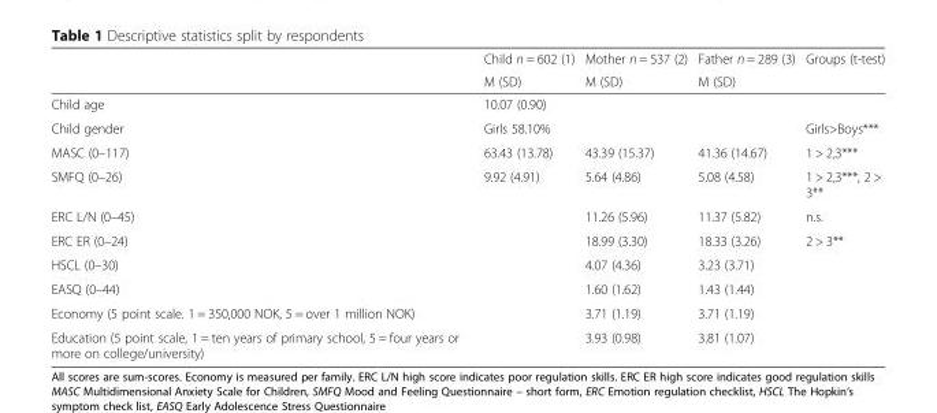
<table><thead><tr><td rowspan="2"></td><td rowspan="2">Child n = 602 (1) M (SD)</td><td rowspan="2">Mother n = 537 (2) M (SD)</td><td rowspan="2">Father n = 289 (3) M (SD)</td><td rowspan="2">Groups (t-test)</td></tr><tr></tr></thead><tbody><tr><td>Child age</td><td>10.07 (0.90)</td><td></td><td></td><td></td></tr><tr><td>Child gender</td><td>Girls 58.10%</td><td></td><td></td><td>Girls&gt;Boys***</td></tr><tr><td>MASC (0–117)</td><td>63.43 (13.78)</td><td>43.39 (15.37)</td><td>41.36 (14.67)</td><td>1 &gt; 2,3***</td></tr><tr><td>SMFQ (0–26)</td><td>9.92 (4.91)</td><td>5.64 (4.86)</td><td>5.08 (4.58)</td><td>1 &gt; 2,3***, 2 &gt; 3**</td></tr><tr><td>ERC L/N (0–45)</td><td></td><td>11.26 (5.96)</td><td>11.37 (5.82)</td><td>n.s.</td></tr><tr><td>ERC ER (0–24)</td><td></td><td>18.99 (3.30)</td><td>18.33 (3.26)</td><td>2 &gt; 3**</td></tr><tr><td>HSCL (0–30)</td><td></td><td>4.07 (4.36)</td><td>3.23 (3.71)</td><td></td></tr><tr><td>EASQ (0–44)</td><td></td><td>1.60 (1.62)</td><td>1.43 (1.44)</td><td></td></tr><tr><td>Economy (5 point scale. 1 = 350,000 NOK, 5 = over 1 million NOK)</td><td></td><td>3.71 (1.19)</td><td>3.71 (1.19)</td><td></td></tr><tr><td>Education (5 point scale, 1 = ten years of primary school, 5 = four years or more on college/university)</td><td></td><td>3.93 (0.98)</td><td>3.81 (1.07)</td><td></td></tr></tbody></table>